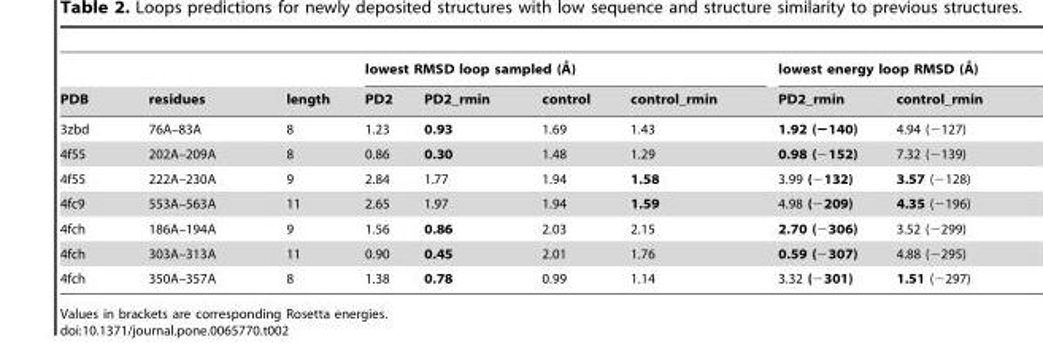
<table><thead><tr><td rowspan="2">PDB</td><td rowspan="2">residues</td><td rowspan="2">length</td><td colspan="4">lowest RMSD loop sampled (A˚ )</td><td colspan="2">lowest energy loop RMSD (A˚ )</td></tr><tr><td>PD2</td><td>PD2_rmin</td><td>control</td><td>control_rmin</td><td>PD2_rmin</td><td>control_rmin</td></tr></thead><tbody><tr><td>3zbd</td><td>76A–83A</td><td>8</td><td>1.23</td><td>0.93</td><td>1.69</td><td>1.43</td><td>1.92 (−140)</td><td>4.94 (−127)</td></tr><tr><td>4f55</td><td>202A–209A</td><td>8</td><td>0.86</td><td>0.30</td><td>1.48</td><td>1.29</td><td>0.98 (−152)</td><td>7.32 (−139)</td></tr><tr><td>4f55</td><td>222A–230A</td><td>9</td><td>2.84</td><td>1.77</td><td>1.94</td><td>1.58</td><td>3.99 (−132)</td><td>3.57 (−128)</td></tr><tr><td>4fc9</td><td>553A–563A</td><td>11</td><td>2.65</td><td>1.97</td><td>1.94</td><td>1.59</td><td>4.98 (−209)</td><td>4.35 (−196)</td></tr><tr><td>4fch</td><td>186A–194A</td><td>9</td><td>1.56</td><td>0.86</td><td>2.03</td><td>2.15</td><td>2.70 (−306)</td><td>3.52 (−299)</td></tr><tr><td>4fch</td><td>303A–313A</td><td>11</td><td>0.90</td><td>0.45</td><td>2.01</td><td>1.76</td><td>0.59 (−307)</td><td>4.88 (−295)</td></tr><tr><td>4fch</td><td>350A–357A</td><td>8</td><td>1.38</td><td>0.78</td><td>0.99</td><td>1.14</td><td>3.32 (−301)</td><td>1.51 (−297)</td></tr></tbody></table>